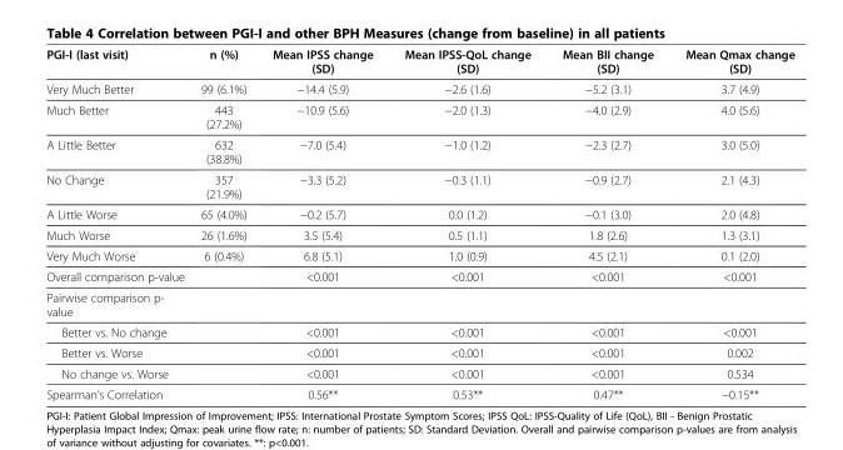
<table><thead><tr><td>PGI-I (last visit)</td><td>n (%)</td><td>Mean IPSS change (SD)</td><td>Mean IPSS-QoL change (SD)</td><td>Mean BII change (SD)</td><td>Mean Qmax change (SD)</td></tr></thead><tbody><tr><td>Very Much Better</td><td>99 (6.1%)</td><td>−14.4 (5.9)</td><td>−2.6 (1.6)</td><td>−5.2 (3.1)</td><td>3.7 (4.9)</td></tr><tr><td>Much Better</td><td>443 (27.2%)</td><td>−10.9 (5.6)</td><td>−2.0 (1.3)</td><td>−4.0 (2.9)</td><td>4.0 (5.6)</td></tr><tr><td>A Little Better</td><td>632 (38.8%)</td><td>−7.0 (5.4)</td><td>−1.0 (1.2)</td><td>−2.3 (2.7)</td><td>3.0 (5.0)</td></tr><tr><td>No Change</td><td>357 (21.9%)</td><td>−3.3 (5.2)</td><td>−0.3 (1.1)</td><td>−0.9 (2.7)</td><td>2.1 (4.3)</td></tr><tr><td>A Little Worse</td><td>65 (4.0%)</td><td>−0.2 (5.7)</td><td>0.0 (1.2)</td><td>−0.1 (3.0)</td><td>2.0 (4.8)</td></tr><tr><td>Much Worse</td><td>26 (1.6%)</td><td>3.5 (5.4)</td><td>0.5 (1.1)</td><td>1.8 (2.6)</td><td>1.3 (3.1)</td></tr><tr><td>Very Much Worse</td><td>6 (0.4%)</td><td>6.8 (5.1)</td><td>1.0 (0.9)</td><td>4.5 (2.1)</td><td>0.1 (2.0)</td></tr><tr><td>Overall comparison p-value</td><td></td><td>&lt;0.001</td><td>&lt;0.001</td><td>&lt;0.001</td><td>&lt;0.001</td></tr><tr><td colspan="6">Pairwise comparison p- value</td></tr><tr><td>Better vs. No change</td><td></td><td>&lt;0.001</td><td>&lt;0.001</td><td>&lt;0.001</td><td>&lt;0.001</td></tr><tr><td>Better vs. Worse</td><td></td><td>&lt;0.001</td><td>&lt;0.001</td><td>&lt;0.001</td><td>0.002</td></tr><tr><td>No change vs. Worse</td><td></td><td>&lt;0.001</td><td>&lt;0.001</td><td>&lt;0.001</td><td>0.534</td></tr><tr><td>Spearman’s Correlation</td><td></td><td>0.56**</td><td>0.53**</td><td>0.47**</td><td>−0.15**</td></tr></tbody></table>